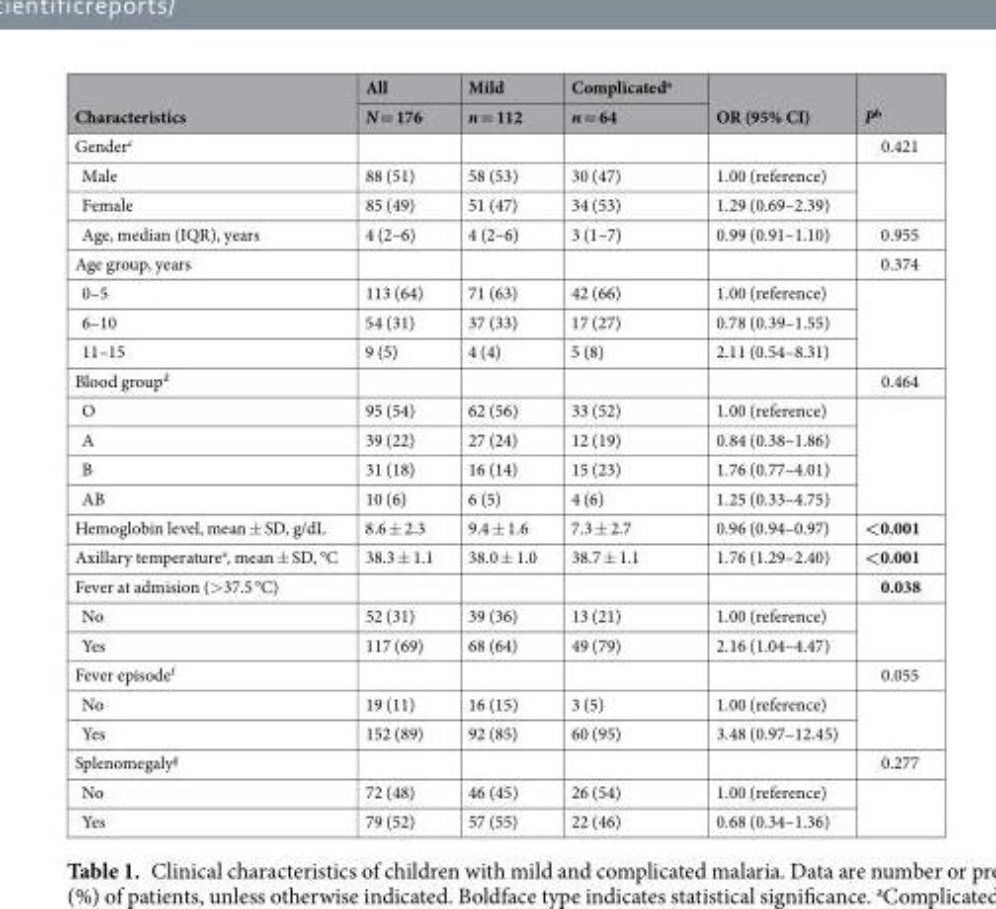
<table><thead><tr><td rowspan="2">Characteristics</td><td rowspan="2">All N = 176</td><td rowspan="2">Mild n = 112</td><td rowspan="2">Complicated<sup>a</sup> n = 64</td><td rowspan="2">OR (95% CI)</td><td rowspan="2">P<sup>b</sup></td></tr><tr></tr></thead><tbody><tr><td>Gender<sup>c</sup></td><td></td><td></td><td></td><td></td><td>0.421</td></tr><tr><td>Male</td><td>88 (51)</td><td>58 (53)</td><td>30 (47)</td><td>1.00 (reference)</td><td rowspan="2"></td></tr><tr><td>Female</td><td>85 (49)</td><td>51 (47)</td><td>34 (53)</td><td>1.29 (0.69–2.39)</td></tr><tr><td>Age, median (IQR), years</td><td>4 (2–6)</td><td>4 (2–6)</td><td>3 (1–7)</td><td>0.99 (0.91–1.10)</td><td>0.955</td></tr><tr><td>Age group, years</td><td></td><td></td><td></td><td></td><td>0.374</td></tr><tr><td>0–5</td><td>113 (64)</td><td>71 (63)</td><td>42 (66)</td><td>1.00 (reference)</td><td rowspan="3"></td></tr><tr><td>6–10</td><td>54 (31)</td><td>37 (33)</td><td>17 (27)</td><td>0.78 (0.39–1.55)</td></tr><tr><td>11–15</td><td>9 (5)</td><td>4 (4)</td><td>5 (8)</td><td>2.11 (0.54–8.31)</td></tr><tr><td>Blood group<sup>d</sup></td><td></td><td></td><td></td><td></td><td>0.464</td></tr><tr><td>O</td><td>95 (54)</td><td>62 (56)</td><td>33 (52)</td><td>1.00 (reference)</td><td rowspan="4"></td></tr><tr><td>A</td><td>39 (22)</td><td>27 (24)</td><td>12 (19)</td><td>0.84 (0.38–1.86)</td></tr><tr><td>B</td><td>31 (18)</td><td>16 (14)</td><td>15 (23)</td><td>1.76 (0.77–4.01)</td></tr><tr><td>AB</td><td>10 (6)</td><td>6 (5)</td><td>4 (6)</td><td>1.25 (0.33–4.75)</td></tr><tr><td>Hemoglobin level, mean ± SD, g/dL</td><td>8.6 ± 2.3</td><td>9.4 ± 1.6</td><td>7.3 ± 2.7</td><td>0.96 (0.94–0.97)</td><td>&lt;0.001</td></tr><tr><td>Axillary temperature<sup>e</sup>, mean ± SD, °C</td><td>38.3 ± 1.1</td><td>38.0 ± 1.0</td><td>38.7 ± 1.1</td><td>1.76 (1.29–2.40)</td><td>&lt;0.001</td></tr><tr><td>Fever at admision (&gt;37.5 °C)</td><td></td><td></td><td></td><td></td><td>0.038</td></tr><tr><td>No</td><td>52 (31)</td><td>39 (36)</td><td>13 (21)</td><td>1.00 (reference)</td><td rowspan="2"></td></tr><tr><td>Yes</td><td>117 (69)</td><td>68 (64)</td><td>49 (79)</td><td>2.16 (1.04–4.47)</td></tr><tr><td>Fever episode<sup>f</sup></td><td></td><td></td><td></td><td></td><td>0.055</td></tr><tr><td>No</td><td>19 (11)</td><td>16 (15)</td><td>3 (5)</td><td>1.00 (reference)</td><td rowspan="2"></td></tr><tr><td>Yes</td><td>152 (89)</td><td>92 (85)</td><td>60 (95)</td><td>3.48 (0.97–12.45)</td></tr><tr><td>Splenomegaly<sup>g</sup></td><td></td><td></td><td></td><td></td><td>0.277</td></tr><tr><td>No</td><td>72 (48)</td><td>46 (45)</td><td>26 (54)</td><td>1.00 (reference)</td><td rowspan="2"></td></tr><tr><td>Yes</td><td>79 (52)</td><td>57 (55)</td><td>22 (46)</td><td>0.68 (0.34–1.36)</td></tr></tbody></table>